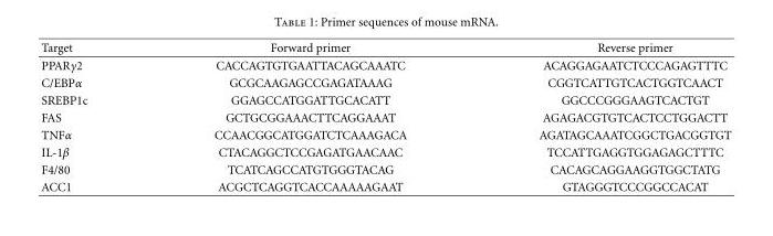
<table><thead><tr><td>Target</td><td>Forward primer</td><td>Reverse primer</td></tr></thead><tbody><tr><td>PPARγ2</td><td>CACCAGTGTGAATTACAGCAAATC</td><td>ACAGGAGAATCTCCCAGAGTTTC</td></tr><tr><td>C/EBPα</td><td>GCGCAAGAGCCGAGATAAAG</td><td>CGGTCATTGTCACTGGTCAACT</td></tr><tr><td>SREBP1c</td><td>GGAGCCATGGATTGCACATT</td><td>GGCCCGGGAAGTCACTGT</td></tr><tr><td>FAS</td><td>GCTGCGGAAACTTCAGGAAAT</td><td>AGAGACGTGTCACTCCTGGACTT</td></tr><tr><td>TNFα</td><td>CCAACGGCATGGATCTCAAAGACA</td><td>AGATAGCAAATCGGCTGACGGTGT</td></tr><tr><td>IL-1β</td><td>CTACAGGCTCCGAGATGAACAAC</td><td>TCCATTGAGGTGGAGAGCTTTC</td></tr><tr><td>F4/80</td><td>TCATCAGCCATGTGGGTACAG</td><td>CACAGCAGGAAGGTGGCTATG</td></tr><tr><td>ACC1</td><td>ACGCTCAGGTCACCAAAAAGAAT</td><td>GTAGGGTCCCGGCCACAT</td></tr></tbody></table>